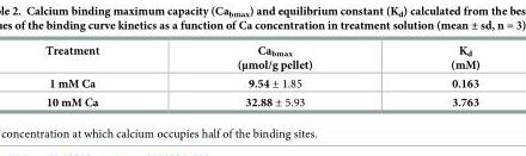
<table><thead><tr><td>Treatment</td><td>Ca<sub>bmax</sub> (μmol/g pellet)</td><td>K<sub>d</sub> (mM)</td></tr></thead><tbody><tr><td>1 mM Ca</td><td>9.54 ± 1.85</td><td>0.163</td></tr><tr><td>10 mM Ca</td><td>32.88 ± 5.93</td><td>3.763</td></tr></tbody></table>